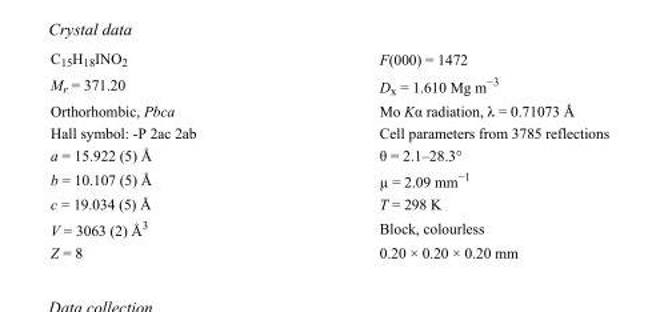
<table><tbody><tr><td>C<sub>15</sub>H<sub>18</sub>INO<sub>2</sub></td><td>F(000) = 1472</td></tr><tr><td>M<sub>r</sub> = 371.20</td><td>D<sub>x</sub> = 1.610 Mg m<sup>−3</sup></td></tr><tr><td>Orthorhombic, Pbca</td><td>Mo Kα radiation, λ = 0.71073 Å</td></tr><tr><td>Hall symbol: -P 2ac 2ab</td><td>Cell parameters from 3785 reflections</td></tr><tr><td>a = 15.922 (5) Å</td><td>θ = 2.1–28.3°</td></tr><tr><td>b = 10.107 (5) Å</td><td>µ = 2.09 mm<sup>−1</sup></td></tr><tr><td>c = 19.034 (5) Å</td><td>T = 298 K</td></tr><tr><td>V = 3063 (2) Å<sup>3</sup></td><td>Block, colourless</td></tr><tr><td>Z = 8</td><td>0.20 × 0.20 × 0.20 mm</td></tr></tbody></table>